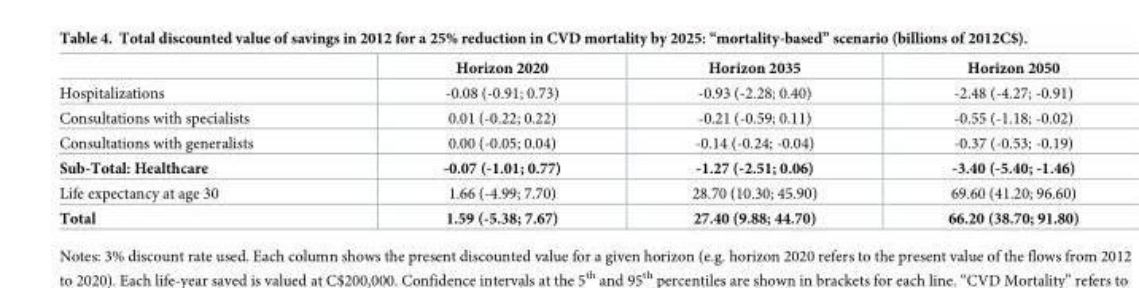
<table><thead><tr><td></td><td>Horizon 2020</td><td>Horizon 2035</td><td>Horizon 2050</td></tr></thead><tbody><tr><td>Hospitalizations</td><td>-0.08 (-0.91; 0.73)</td><td>-0.93 (-2.28; 0.40)</td><td>-2.48 (-4.27; -0.91)</td></tr><tr><td>Consultations with specialists</td><td>0.01 (-0.22; 0.22)</td><td>-0.21 (-0.59; 0.11)</td><td>-0.55 (-1.18; -0.02)</td></tr><tr><td>Consultations with generalists</td><td>0.00 (-0.05; 0.04)</td><td>-0.14 (-0.24; -0.04)</td><td>-0.37 (-0.53; -0.19)</td></tr><tr><td>Sub-Total: Healthcare</td><td>-0.07 (-1.01; 0.77)</td><td>-1.27 (-2.51; 0.06)</td><td>-3.40 (-5.40; -1.46)</td></tr><tr><td>Life expectancy at age 30</td><td>1.66 (-4.99; 7.70)</td><td>28.70 (10.30; 45.90)</td><td>69.60 (41.20; 96.60)</td></tr><tr><td>Total</td><td>1.59 (-5.38; 7.67)</td><td>27.40 (9.88; 44.70)</td><td>66.20 (38.70; 91.80)</td></tr></tbody></table>